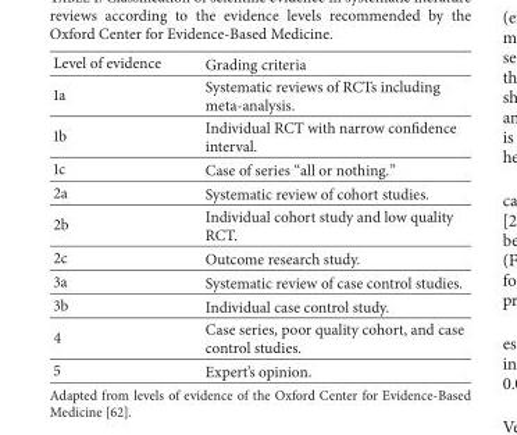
<table><thead><tr><td>Level of evidence</td><td>Grading criteria</td></tr></thead><tbody><tr><td>1a</td><td>Systematic reviews of RCTs including meta-analysis.</td></tr><tr><td>1b</td><td>Individual RCT with narrow confidence interval.</td></tr><tr><td>1c</td><td>Case of series “all or nothing.”</td></tr><tr><td>2a</td><td>Systematic review of cohort studies.</td></tr><tr><td>2b</td><td>Individual cohort study and low quality RCT.</td></tr><tr><td>2c</td><td>Outcome research study.</td></tr><tr><td>3a</td><td>Systematic review of case control studies.</td></tr><tr><td>3b</td><td>Individual case control study.</td></tr><tr><td>4</td><td>Case series, poor quality cohort, and case control studies.</td></tr><tr><td>5</td><td>Expert’s opinion.</td></tr></tbody></table>